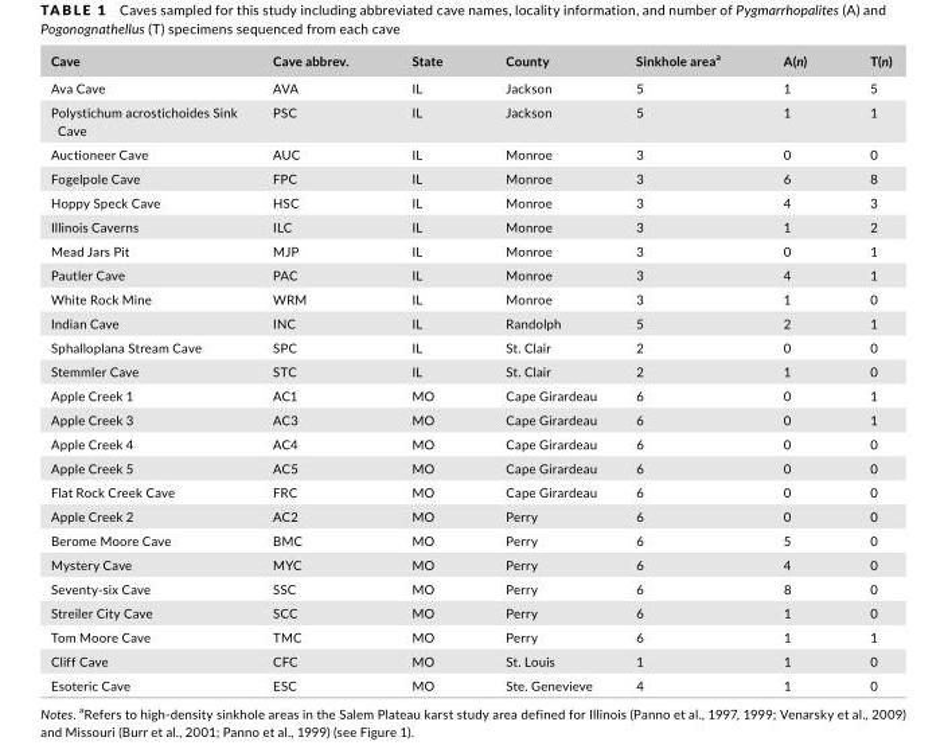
<table><thead><tr><td>Cave</td><td>Cave abbrev.</td><td>State</td><td>County</td><td>Sinkhole area<sup>a</sup></td><td>A(n)</td><td>T(n)</td></tr></thead><tbody><tr><td>Ava Cave</td><td>AVA</td><td>IL</td><td>Jackson</td><td>5</td><td>1</td><td>5</td></tr><tr><td>Polystichum acrostichoides Sink Cave</td><td>PSC</td><td>IL</td><td>Jackson</td><td>5</td><td>1</td><td>1</td></tr><tr><td>Auctioneer Cave</td><td>AUC</td><td>IL</td><td>Monroe</td><td>3</td><td>0</td><td>0</td></tr><tr><td>Fogelpole Cave</td><td>FPC</td><td>IL</td><td>Monroe</td><td>3</td><td>6</td><td>8</td></tr><tr><td>Hoppy Speck Cave</td><td>HSC</td><td>IL</td><td>Monroe</td><td>3</td><td>4</td><td>3</td></tr><tr><td>Illinois Caverns</td><td>ILC</td><td>IL</td><td>Monroe</td><td>3</td><td>1</td><td>2</td></tr><tr><td>Mead Jars Pit</td><td>MJP</td><td>IL</td><td>Monroe</td><td>3</td><td>0</td><td>1</td></tr><tr><td>Pautler Cave</td><td>PAC</td><td>IL</td><td>Monroe</td><td>3</td><td>4</td><td>1</td></tr><tr><td>White Rock Mine</td><td>WRM</td><td>IL</td><td>Monroe</td><td>3</td><td>1</td><td>0</td></tr><tr><td>Indian Cave</td><td>INC</td><td>IL</td><td>Randolph</td><td>5</td><td>2</td><td>1</td></tr><tr><td>Sphalloplana Stream Cave</td><td>SPC</td><td>IL</td><td>St. Clair</td><td>2</td><td>0</td><td>0</td></tr><tr><td>Stemmler Cave</td><td>STC</td><td>IL</td><td>St. Clair</td><td>2</td><td>1</td><td>0</td></tr><tr><td>Apple Creek 1</td><td>AC1</td><td>MO</td><td>Cape Girardeau</td><td>6</td><td>0</td><td>1</td></tr><tr><td>Apple Creek 3</td><td>AC3</td><td>MO</td><td>Cape Girardeau</td><td>6</td><td>0</td><td>1</td></tr><tr><td>Apple Creek 4</td><td>AC4</td><td>MO</td><td>Cape Girardeau</td><td>6</td><td>0</td><td>0</td></tr><tr><td>Apple Creek 5</td><td>AC5</td><td>MO</td><td>Cape Girardeau</td><td>6</td><td>0</td><td>0</td></tr><tr><td>Flat Rock Creek Cave</td><td>FRC</td><td>MO</td><td>Cape Girardeau</td><td>6</td><td>0</td><td>0</td></tr><tr><td>Apple Creek 2</td><td>AC2</td><td>MO</td><td>Perry</td><td>6</td><td>0</td><td>0</td></tr><tr><td>Berome Moore Cave</td><td>BMC</td><td>MO</td><td>Perry</td><td>6</td><td>5</td><td>0</td></tr><tr><td>Mystery Cave</td><td>MYC</td><td>MO</td><td>Perry</td><td>6</td><td>4</td><td>0</td></tr><tr><td>Seventy- six Cave</td><td>SSC</td><td>MO</td><td>Perry</td><td>6</td><td>8</td><td>0</td></tr><tr><td>Streiler City Cave</td><td>SCC</td><td>MO</td><td>Perry</td><td>6</td><td>1</td><td>0</td></tr><tr><td>Tom Moore Cave</td><td>TMC</td><td>MO</td><td>Perry</td><td>6</td><td>1</td><td>1</td></tr><tr><td>Cliff Cave</td><td>CFC</td><td>MO</td><td>St. Louis</td><td>1</td><td>1</td><td>0</td></tr><tr><td>Esoteric Cave</td><td>ESC</td><td>MO</td><td>Ste. Genevieve</td><td>4</td><td>1</td><td>0</td></tr></tbody></table>